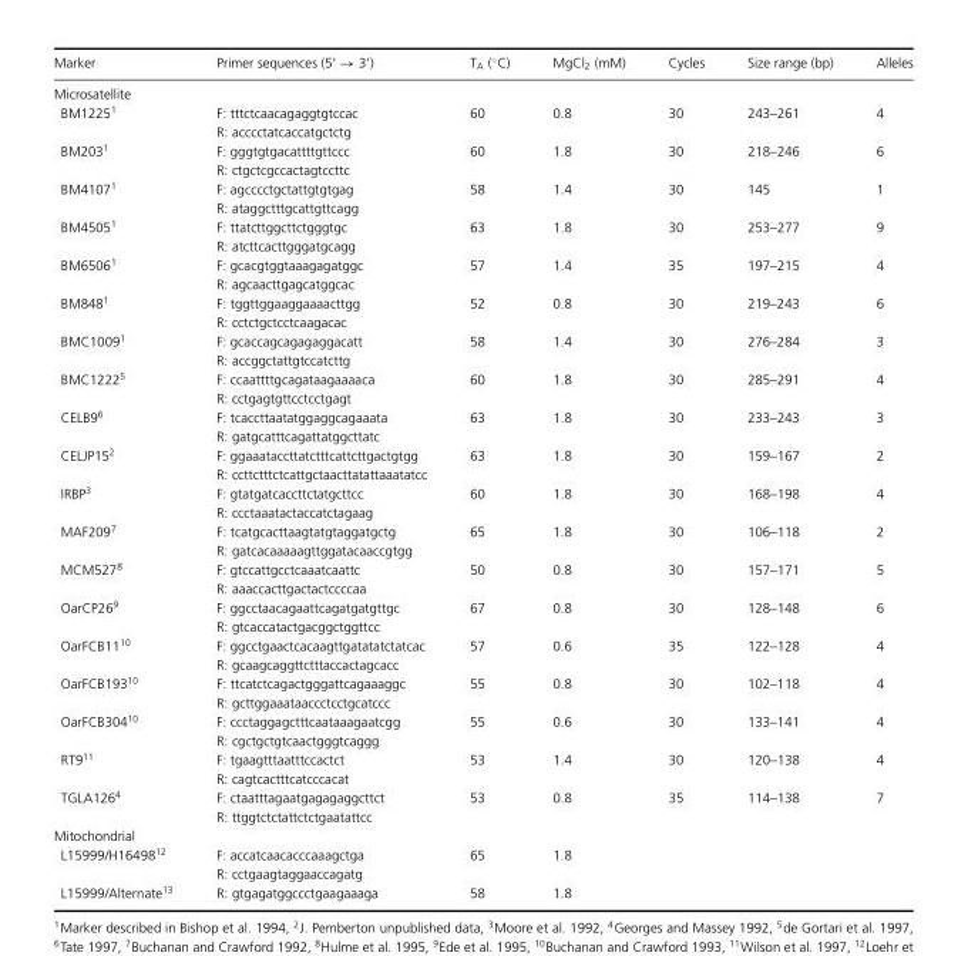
<table><thead><tr><td>Marker</td><td>Primer sequences (5’ → 3’)</td><td>TA (◦C)</td><td>MgCl<sub>2</sub> (mM)</td><td>Cycles</td><td>Size range (bp)</td><td>Alleles</td></tr></thead><tbody><tr><td colspan="7">Microsatellite</td></tr><tr><td rowspan="2">BM1225<sup>1</sup></td><td>F: tttctcaacagaggtgtccac</td><td>60</td><td>0.8</td><td>30</td><td>243–261</td><td>4</td></tr><tr><td>R: acccctatcaccatgctctg</td><td></td><td></td><td></td><td></td><td></td></tr><tr><td rowspan="2">BM203<sup>1</sup></td><td>F: gggtgtgacattttgttccc</td><td>60</td><td>1.8</td><td>30</td><td>218–246</td><td>6</td></tr><tr><td>R: ctgctcgccactagtccttc</td><td></td><td></td><td></td><td></td><td></td></tr><tr><td rowspan="2">BM4107<sup>1</sup></td><td>F: agcccctgctattgtgtgag</td><td>58</td><td>1.4</td><td>30</td><td>145</td><td>1</td></tr><tr><td>R: ataggctttgcattgttcagg</td><td></td><td></td><td></td><td></td><td></td></tr><tr><td rowspan="2">BM4505<sup>1</sup></td><td>F: ttatcttggcttctgggtgc</td><td>63</td><td>1.8</td><td>30</td><td>253–277</td><td>9</td></tr><tr><td>R: atcttcacttgggatgcagg</td><td></td><td></td><td></td><td></td><td></td></tr><tr><td rowspan="2">BM6506<sup>1</sup></td><td>F: gcacgtggtaaagagatggc</td><td>57</td><td>1.4</td><td>35</td><td>197–215</td><td>4</td></tr><tr><td>R: agcaacttgagcatggcac</td><td></td><td></td><td></td><td></td><td></td></tr><tr><td rowspan="2">BM848<sup>1</sup></td><td>F: tggttggaaggaaaacttgg</td><td>52</td><td>0.8</td><td>30</td><td>219–243</td><td>6</td></tr><tr><td>R: cctctgctcctcaagacac</td><td></td><td></td><td></td><td></td><td></td></tr><tr><td rowspan="2">BMC1009<sup>1</sup></td><td>F: gcaccagcagagaggacatt</td><td>58</td><td>1.4</td><td>30</td><td>276–284</td><td>3</td></tr><tr><td>R: accggctattgtccatcttg</td><td></td><td></td><td></td><td></td><td></td></tr><tr><td rowspan="2">BMC1222<sup>5</sup></td><td>F: ccaattttgcagataagaaaaca</td><td>60</td><td>1.8</td><td>30</td><td>285–291</td><td>4</td></tr><tr><td>R: cctgagtgttcctcctgagt</td><td></td><td></td><td></td><td></td><td></td></tr><tr><td rowspan="2">CELB9<sup>6</sup></td><td>F: tcaccttaatatggaggcagaaata</td><td>63</td><td>1.8</td><td>30</td><td>233–243</td><td>3</td></tr><tr><td>R: gatgcatttcagattatggcttatc</td><td></td><td></td><td></td><td></td><td></td></tr><tr><td rowspan="2">CELJP15<sup>2</sup></td><td>F: ggaaataccttatctttcattcttgactgtgg</td><td>63</td><td>1.8</td><td>30</td><td>159–167</td><td>2</td></tr><tr><td>R: ccttctttctcattgctaacttatattaaatatcc</td><td></td><td></td><td></td><td></td><td></td></tr><tr><td rowspan="2">IRBP<sup>3</sup></td><td>F: gtatgatcaccttctatgcttcc</td><td>60</td><td>1.8</td><td>30</td><td>168–198</td><td>4</td></tr><tr><td>R: ccctaaatactaccatctagaag</td><td></td><td></td><td></td><td></td><td></td></tr><tr><td rowspan="2">MAF209<sup>7</sup></td><td>F: tcatgcacttaagtatgtaggatgctg</td><td>65</td><td>1.8</td><td>30</td><td>106–118</td><td>2</td></tr><tr><td>R: gatcacaaaaagttggatacaaccgtgg</td><td></td><td></td><td></td><td></td><td></td></tr><tr><td rowspan="2">MCM527<sup>8</sup></td><td>F: gtccattgcctcaaatcaattc</td><td>50</td><td>0.8</td><td>30</td><td>157–171</td><td>5</td></tr><tr><td>R: aaaccacttgactactccccaa</td><td></td><td></td><td></td><td></td><td></td></tr><tr><td rowspan="2">OarCP26<sup>9</sup></td><td>F: ggcctaacagaattcagatgatgttgc</td><td>67</td><td>0.8</td><td>30</td><td>128–148</td><td>6</td></tr><tr><td>R: gtcaccatactgacggctggttcc</td><td></td><td></td><td></td><td></td><td></td></tr><tr><td rowspan="2">OarFCB11<sup>10</sup></td><td>F: ggcctgaactcacaagttgatatatctatcac</td><td>57</td><td>0.6</td><td>35</td><td>122–128</td><td>4</td></tr><tr><td>R: gcaagcaggttctttaccactagcacc</td><td></td><td></td><td></td><td></td><td></td></tr><tr><td rowspan="2">OarFCB193<sup>10</sup></td><td>F: ttcatctcagactgggattcagaaaggc</td><td>55</td><td>0.8</td><td>30</td><td>102–118</td><td>4</td></tr><tr><td>R: gcttggaaataaccctcctgcatccc</td><td></td><td></td><td></td><td></td><td></td></tr><tr><td rowspan="2">OarFCB304<sup>10</sup></td><td>F: ccctaggagctttcaataaagaatcgg</td><td>55</td><td>0.6</td><td>30</td><td>133–141</td><td>4</td></tr><tr><td>R: cgctgctgtcaactgggtcaggg</td><td></td><td></td><td></td><td></td><td></td></tr><tr><td rowspan="2">RT9<sup>11</sup></td><td>F: tgaagtttaatttccactct</td><td>53</td><td>1.4</td><td>30</td><td>120–138</td><td>4</td></tr><tr><td>R: cagtcactttcatcccacat</td><td></td><td></td><td></td><td></td><td></td></tr><tr><td rowspan="2">TGLA126<sup>4</sup></td><td>F: ctaatttagaatgagagaggcttct</td><td>53</td><td>0.8</td><td>35</td><td>114–138</td><td>7</td></tr><tr><td>R: ttggtctctattctctgaatattcc</td><td></td><td></td><td></td><td></td><td></td></tr><tr><td colspan="7">Mitochondrial</td></tr><tr><td rowspan="2">L15999/H16498<sup>12</sup></td><td>F: accatcaacacccaaagctga</td><td>65</td><td>1.8</td><td></td><td></td><td></td></tr><tr><td>R: cctgaagtaggaaccagatg</td><td></td><td></td><td></td><td></td><td></td></tr><tr><td>L15999/Alternate<sup>13</sup></td><td>R: gtgagatggccctgaagaaaga</td><td>58</td><td>1.8</td><td></td><td></td><td></td></tr></tbody></table>